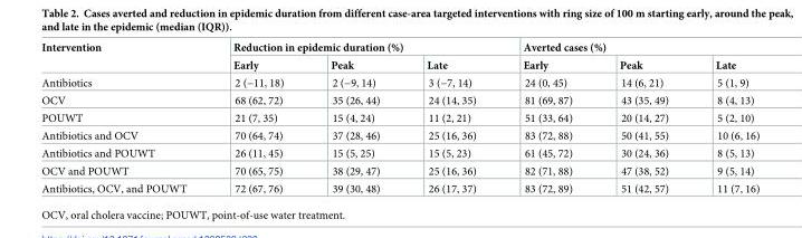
<table><thead><tr><td rowspan="2">Intervention</td><td colspan="3">Reduction in epidemic duration (%)</td><td colspan="3">Averted cases (%)</td></tr><tr><td>Early</td><td>Peak</td><td>Late</td><td>Early</td><td>Peak</td><td>Late</td></tr></thead><tbody><tr><td>Antibiotics</td><td>2 (−11, 18)</td><td>2 (−9, 14)</td><td>3 (−7, 14)</td><td>24 (0, 45)</td><td>14 (6, 21)</td><td>5 (1, 9)</td></tr><tr><td>OCV</td><td>68 (62, 72)</td><td>35 (26, 44)</td><td>24 (14, 35)</td><td>81 (69, 87)</td><td>43 (35, 49)</td><td>8 (4, 13)</td></tr><tr><td>POUWT</td><td>21 (7, 35)</td><td>15 (4, 24)</td><td>11 (2, 21)</td><td>51 (33, 64)</td><td>20 (14, 27)</td><td>5 (2, 10)</td></tr><tr><td>Antibiotics and OCV</td><td>70 (64, 74)</td><td>37 (28, 46)</td><td>25 (16, 36)</td><td>83 (72, 88)</td><td>50 (41, 55)</td><td>10 (6, 16)</td></tr><tr><td>Antibiotics and POUWT</td><td>26 (11, 45)</td><td>15 (5, 25)</td><td>15 (5, 23)</td><td>61 (45, 72)</td><td>30 (24, 36)</td><td>8 (5, 13)</td></tr><tr><td>OCV and POUWT</td><td>70 (65, 75)</td><td>38 (29, 47)</td><td>25 (16, 36)</td><td>82 (71, 88)</td><td>47 (38, 52)</td><td>9 (5, 14)</td></tr><tr><td>Antibiotics, OCV, and POUWT</td><td>72 (67, 76)</td><td>39 (30, 48)</td><td>26 (17, 37)</td><td>83 (72, 89)</td><td>51 (42, 57)</td><td>11 (7, 16)</td></tr></tbody></table>